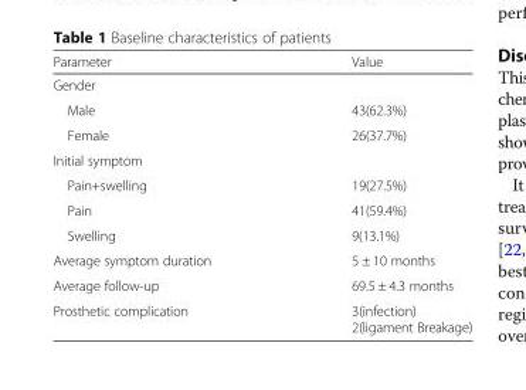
<table><thead><tr><td>Parameter</td><td>Value</td></tr></thead><tbody><tr><td colspan="2">Gender</td></tr><tr><td>Male</td><td>43(62.3%)</td></tr><tr><td>Female</td><td>26(37.7%)</td></tr><tr><td colspan="2">Initial symptom</td></tr><tr><td>Pain+swelling</td><td>19(27.5%)</td></tr><tr><td>Pain</td><td>41(59.4%)</td></tr><tr><td>Swelling</td><td>9(13.1%)</td></tr><tr><td>Average symptom duration</td><td>5 ± 10 months</td></tr><tr><td>Average follow-up</td><td>69.5 ± 4.3 months</td></tr><tr><td>Prosthetic complication</td><td>3(infection) 2(ligament Breakage)</td></tr></tbody></table>